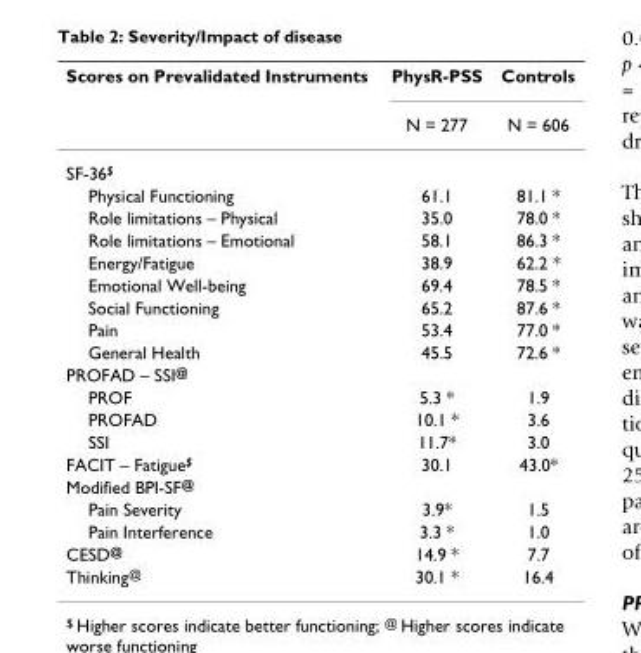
<table><thead><tr><td rowspan="2">Scores on Prevalidated Instruments</td><td rowspan="2">PhysR-PSS N = 277</td><td rowspan="2">Controls N = 606</td></tr><tr></tr></thead><tbody><tr><td colspan="3">SF-36<sup>$</sup></td></tr><tr><td>Physical Functioning</td><td>61.1</td><td>81.1 *</td></tr><tr><td>Role limitations – Physical</td><td>35.0</td><td>78.0 *</td></tr><tr><td>Role limitations – Emotional</td><td>58.1</td><td>86.3 *</td></tr><tr><td>Energy/Fatigue</td><td>38.9</td><td>62.2 *</td></tr><tr><td>Emotional Well-being</td><td>69.4</td><td>78.5 *</td></tr><tr><td>Social Functioning</td><td>65.2</td><td>87.6 *</td></tr><tr><td>Pain</td><td>53.4</td><td>77.0 *</td></tr><tr><td>General Health</td><td>45.5</td><td>72.6 *</td></tr><tr><td colspan="3">PROFAD – SSI<sup>@</sup></td></tr><tr><td>PROF</td><td>5.3 *</td><td>1.9</td></tr><tr><td>PROFAD</td><td>10.1 *</td><td>3.6</td></tr><tr><td>SSI</td><td>11.7*</td><td>3.0</td></tr><tr><td>FACIT – Fatigue<sup>$</sup></td><td>30.1</td><td>43.0*</td></tr><tr><td colspan="3">Modified BPI-SF<sup>@</sup></td></tr><tr><td>Pain Severity</td><td>3.9*</td><td>1.5</td></tr><tr><td>Pain Interference</td><td>3.3 *</td><td>1.0</td></tr><tr><td>CESD<sup>@</sup></td><td>14.9 *</td><td>7.7</td></tr><tr><td>Thinking<sup>@</sup></td><td>30.1 *</td><td>16.4</td></tr></tbody></table>